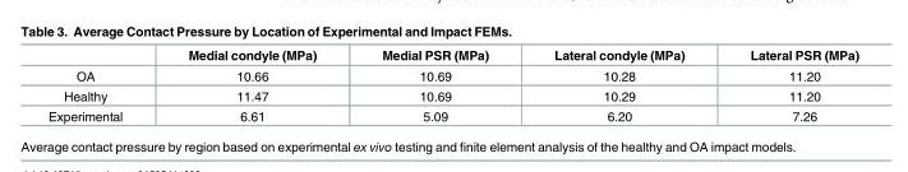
<table><thead><tr><td></td><td>Medial condyle (MPa)</td><td>Medial PSR (MPa)</td><td>Lateral condyle (MPa)</td><td>Lateral PSR (MPa)</td></tr></thead><tbody><tr><td>OA</td><td>10.66</td><td>10.69</td><td>10.28</td><td>11.20</td></tr><tr><td>Healthy</td><td>11.47</td><td>10.69</td><td>10.29</td><td>11.20</td></tr><tr><td>Experimental</td><td>6.61</td><td>5.09</td><td>6.20</td><td>7.26</td></tr></tbody></table>